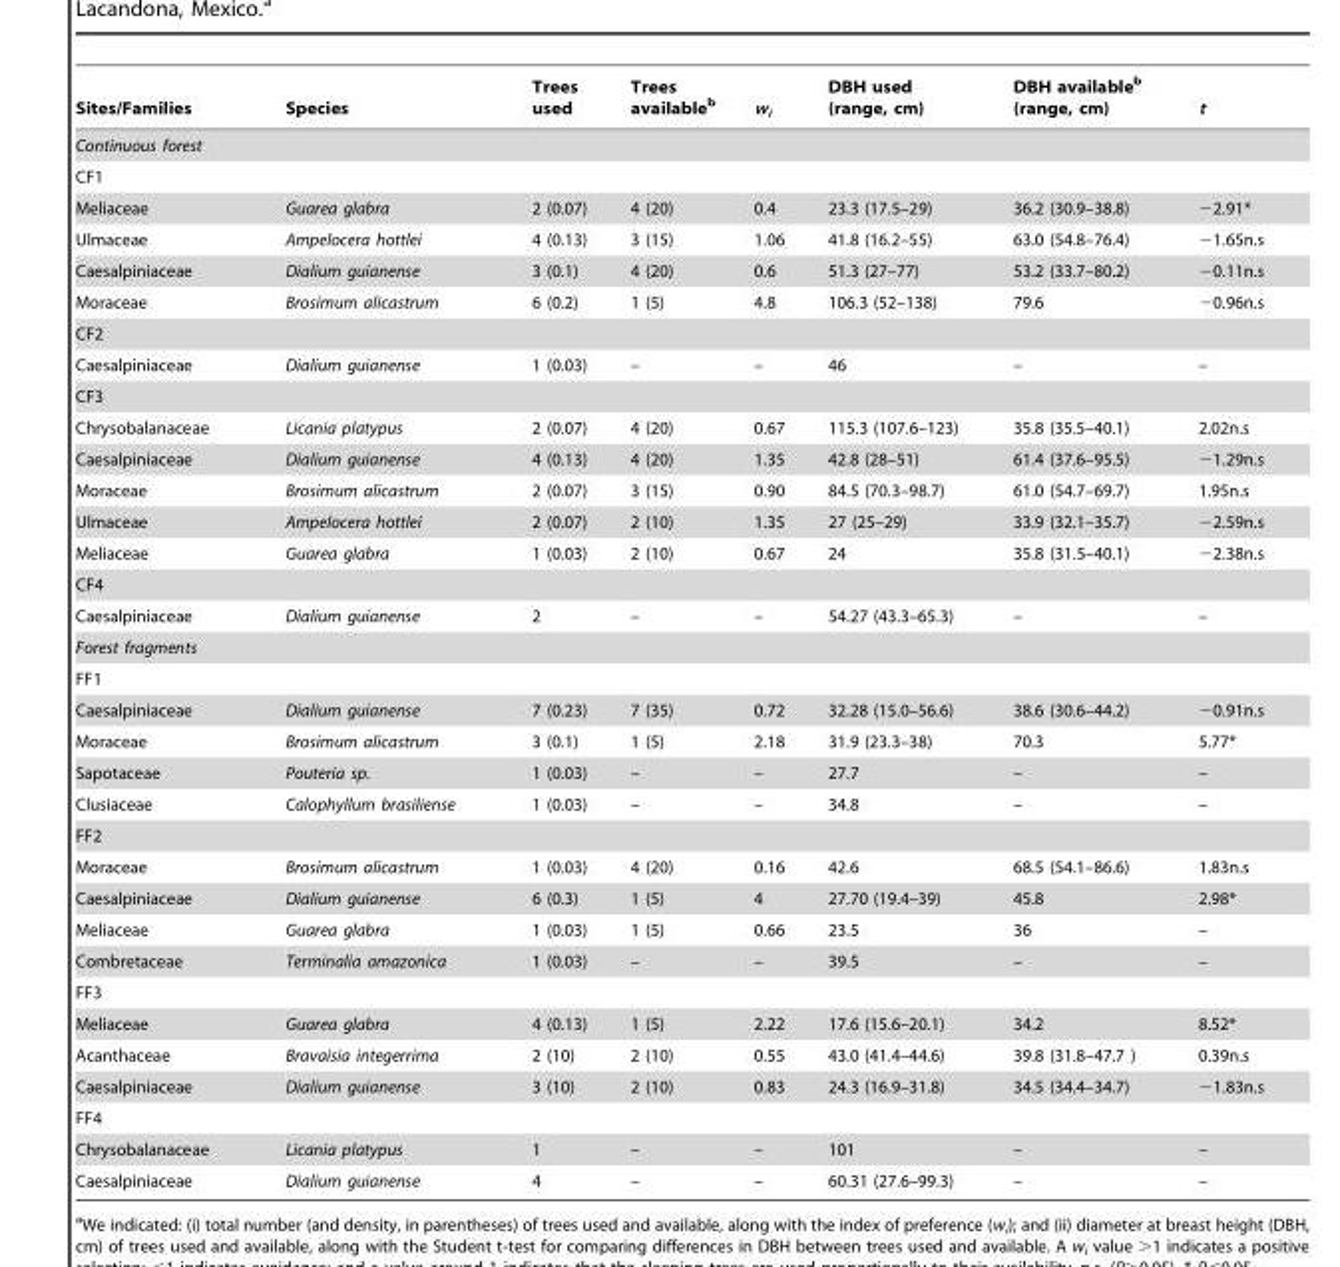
<table><thead><tr><td>Sites/Families</td><td>Species</td><td>Trees used</td><td>Trees available<sup>b</sup></td><td>w<sub>i</sub></td><td>DBH used (range, cm)</td><td>DBH available<sup>b</sup> (range, cm)</td><td>t</td></tr></thead><tbody><tr><td colspan="8">Continuous forest</td></tr><tr><td colspan="8">CF1</td></tr><tr><td>Meliaceae</td><td>Guarea glabra</td><td>2 (0.07)</td><td>4 (20)</td><td>0.4</td><td>23.3 (17.5–29)</td><td>36.2 (30.9–38.8)</td><td>−2.91*</td></tr><tr><td>Ulmaceae</td><td>Ampelocera hottlei</td><td>4 (0.13)</td><td>3 (15)</td><td>1.06</td><td>41.8 (16.2–55)</td><td>63.0 (54.8–76.4)</td><td>−1.65n.s</td></tr><tr><td>Caesalpiniaceae</td><td>Dialium guianense</td><td>3 (0.1)</td><td>4 (20)</td><td>0.6</td><td>51.3 (27–77)</td><td>53.2 (33.7–80.2)</td><td>−0.11n.s</td></tr><tr><td>Moraceae</td><td>Brosimum alicastrum</td><td>6 (0.2)</td><td>1 (5)</td><td>4.8</td><td>106.3 (52–138)</td><td>79.6</td><td>−0.96n.s</td></tr><tr><td colspan="8">CF2</td></tr><tr><td>Caesalpiniaceae</td><td>Dialium guianense</td><td>1 (0.03)</td><td>–</td><td>–</td><td>46</td><td>–</td><td>–</td></tr><tr><td colspan="8">CF3</td></tr><tr><td>Chrysobalanaceae</td><td>Licania platypus</td><td>2 (0.07)</td><td>4 (20)</td><td>0.67</td><td>115.3 (107.6–123)</td><td>35.8 (35.5–40.1)</td><td>2.02n.s</td></tr><tr><td>Caesalpiniaceae</td><td>Dialium guianense</td><td>4 (0.13)</td><td>4 (20)</td><td>1.35</td><td>42.8 (28–51)</td><td>61.4 (37.6–95.5)</td><td>−1.29n.s</td></tr><tr><td>Moraceae</td><td>Brosimum alicastrum</td><td>2 (0.07)</td><td>3 (15)</td><td>0.90</td><td>84.5 (70.3–98.7)</td><td>61.0 (54.7–69.7)</td><td>1.95n.s</td></tr><tr><td>Ulmaceae</td><td>Ampelocera hottlei</td><td>2 (0.07)</td><td>2 (10)</td><td>1.35</td><td>27 (25–29)</td><td>33.9 (32.1–35.7)</td><td>−2.59n.s</td></tr><tr><td>Meliaceae</td><td>Guarea glabra</td><td>1 (0.03)</td><td>2 (10)</td><td>0.67</td><td>24</td><td>35.8 (31.5–40.1)</td><td>−2.38n.s</td></tr><tr><td colspan="8">CF4</td></tr><tr><td>Caesalpiniaceae</td><td>Dialium guianense</td><td>2</td><td>–</td><td>–</td><td>54.27 (43.3–65.3)</td><td>–</td><td>–</td></tr><tr><td colspan="8">Forest fragments</td></tr><tr><td colspan="8">FF1</td></tr><tr><td>Caesalpiniaceae</td><td>Dialium guianense</td><td>7 (0.23)</td><td>7 (35)</td><td>0.72</td><td>32.28 (15.0–56.6)</td><td>38.6 (30.6–44.2)</td><td>−0.91n.s</td></tr><tr><td>Moraceae</td><td>Brosimum alicastrum</td><td>3 (0.1)</td><td>1 (5)</td><td>2.18</td><td>31.9 (23.3–38)</td><td>70.3</td><td>5.77*</td></tr><tr><td>Sapotaceae</td><td>Pouteria sp.</td><td>1 (0.03)</td><td>–</td><td>–</td><td>27.7</td><td>–</td><td>–</td></tr><tr><td>Clusiaceae</td><td>Calophyllum brasiliense</td><td>1 (0.03)</td><td>–</td><td>–</td><td>34.8</td><td>–</td><td>–</td></tr><tr><td colspan="8">FF2</td></tr><tr><td>Moraceae</td><td>Brosimum alicastrum</td><td>1 (0.03)</td><td>4 (20)</td><td>0.16</td><td>42.6</td><td>68.5 (54.1–86.6)</td><td>1.83n.s</td></tr><tr><td>Caesalpiniaceae</td><td>Dialium guianense</td><td>6 (0.3)</td><td>1 (5)</td><td>4</td><td>27.70 (19.4–39)</td><td>45.8</td><td>2.98*</td></tr><tr><td>Meliaceae</td><td>Guarea glabra</td><td>1 (0.03)</td><td>1 (5)</td><td>0.66</td><td>23.5</td><td>36</td><td>–</td></tr><tr><td>Combretaceae</td><td>Terminalia amazonica</td><td>1 (0.03)</td><td>–</td><td>–</td><td>39.5</td><td>–</td><td>–</td></tr><tr><td colspan="8">FF3</td></tr><tr><td>Meliaceae</td><td>Guarea glabra</td><td>4 (0.13)</td><td>1 (5)</td><td>2.22</td><td>17.6 (15.6–20.1)</td><td>34.2</td><td>8.52*</td></tr><tr><td>Acanthaceae</td><td>Bravaisia integerrima</td><td>2 (10)</td><td>2 (10)</td><td>0.55</td><td>43.0 (41.4–44.6)</td><td>39.8 (31.8–47.7 )</td><td>0.39n.s</td></tr><tr><td>Caesalpiniaceae</td><td>Dialium guianense</td><td>3 (10)</td><td>2 (10)</td><td>0.83</td><td>24.3 (16.9–31.8)</td><td>34.5 (34.4–34.7)</td><td>−1.83n.s</td></tr><tr><td colspan="8">FF4</td></tr><tr><td>Chrysobalanaceae</td><td>Licania platypus</td><td>1</td><td>–</td><td>–</td><td>101</td><td>–</td><td>–</td></tr><tr><td>Caesalpiniaceae</td><td>Dialium guianense</td><td>4</td><td>–</td><td>–</td><td>60.31 (27.6–99.3)</td><td>–</td><td>–</td></tr></tbody></table>